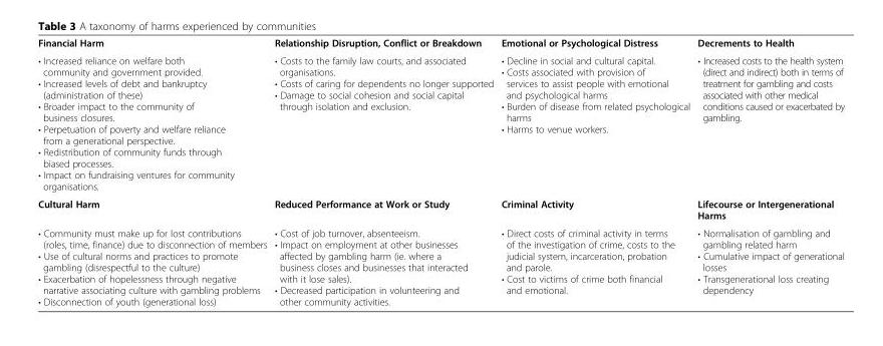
<table><tbody><tr><td>Financial Harm</td><td>Relationship Disruption, Conflict or Breakdown</td><td>Emotional or Psychological Distress</td><td>Decrements to Health</td></tr><tr><td>• Increased reliance on welfare both community and government provided. • Increased levels of debt and bankruptcy (administration of these) • Broader impact to the community of business closures. • Perpetuation of poverty and welfare reliance from a generational perspective. • Redistribution of community funds through biased processes. • Impact on fundraising ventures for community organisations.</td><td>• Costs to the family law courts, and associated organisations. • Costs of caring for dependents no longer supported • Damage to social cohesion and social capital through isolation and exclusion.</td><td>• Decline in social and cultural capital. • Costs associated with provision of services to assist people with emotional and psychological harms • Burden of disease from related psychological harms • Harms to venue workers.</td><td>• Increased costs to the health system (direct and indirect) both in terms of treatment for gambling and costs associated with other medical conditions caused or exacerbated by gambling.</td></tr><tr><td>Cultural Harm</td><td>Reduced Performance at Work or Study</td><td>Criminal Activity</td><td>Lifecourse or Intergenerational Harms</td></tr><tr><td>• Community must make up for lost contributions (roles, time, finance) due to disconnection of members • Use of cultural norms and practices to promote gambling (disrespectful to the culture) • Exacerbation of hopelessness through negative narrative associating culture with gambling problems • Disconnection of youth (generational loss)</td><td>• Cost of job turnover, absenteeism. • Impact on employment at other businesses affected by gambling harm (ie. where a business closes and businesses that interacted with it lose sales). • Decreased participation in volunteering and other community activities.</td><td>• Direct costs of criminal activity in terms of the investigation of crime, costs to the judicial system, incarceration, probation and parole. • Cost to victims of crime both financial and emotional.</td><td>• Normalisation of gambling and gambling related harm • Cumulative impact of generational losses • Transgenerational loss creating dependency</td></tr></tbody></table>